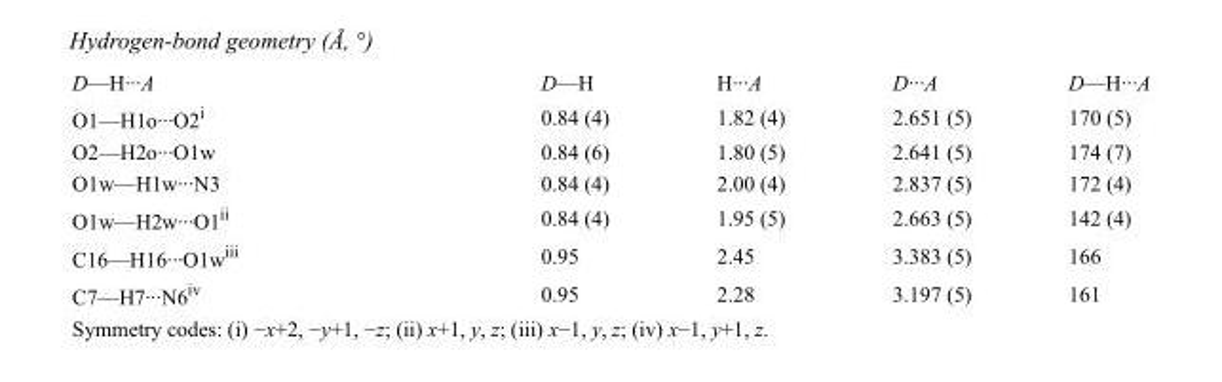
<table><tbody><tr><td>D—H···A</td><td>D—H</td><td>H···A</td><td>D···A</td><td>D—H···A</td></tr><tr><td>O1—H1o···O2<sup>i</sup></td><td>0.84 (4)</td><td>1.82 (4)</td><td>2.651 (5)</td><td>170 (5)</td></tr><tr><td>O2—H2o···O1w</td><td>0.84 (6)</td><td>1.80 (5)</td><td>2.641 (5)</td><td>174 (7)</td></tr><tr><td>O1w—H1w···N3</td><td>0.84 (4)</td><td>2.00 (4)</td><td>2.837 (5)</td><td>172 (4)</td></tr><tr><td>O1w—H2w···O1<sup>ii</sup></td><td>0.84 (4)</td><td>1.95 (5)</td><td>2.663 (5)</td><td>142 (4)</td></tr><tr><td>C16—H16···O1w<sup>iii</sup></td><td>0.95</td><td>2.45</td><td>3.383 (5)</td><td>166</td></tr><tr><td>C7—H7···N6<sup>iv</sup></td><td>0.95</td><td>2.28</td><td>3.197 (5)</td><td>161</td></tr></tbody></table>